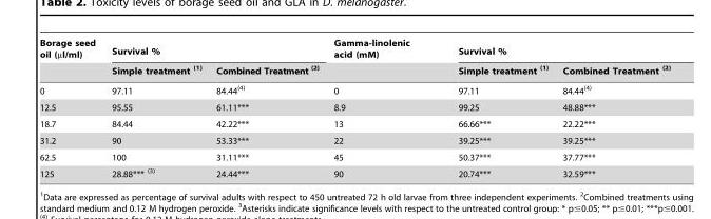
<table><thead><tr><td rowspan="2">Borage seed oil (µl/ml)</td><td colspan="2">Survival %</td><td rowspan="2">Gamma-linolenic acid (mM)</td><td colspan="2">Survival %</td></tr><tr><td>Simple treatment <sup>(1)</sup></td><td>Combined Treatment <sup>(2)</sup></td><td>Simple treatment <sup>(1)</sup></td><td>Combined Treatment <sup>(2)</sup></td></tr></thead><tbody><tr><td>0</td><td>97.11</td><td>84.44<sup>(4)</sup></td><td>0</td><td>97.11</td><td>84.44<sup>(4)</sup></td></tr><tr><td>12.5</td><td>95.55</td><td>61.11***</td><td>8.9</td><td>99.25</td><td>48.88***</td></tr><tr><td>18.7</td><td>84.44</td><td>42.22***</td><td>13</td><td>66.66***</td><td>22.22***</td></tr><tr><td>31.2</td><td>90</td><td>53.33***</td><td>22</td><td>39.25***</td><td>39.25***</td></tr><tr><td>62.5</td><td>100</td><td>31.11***</td><td>45</td><td>50.37***</td><td>37.77***</td></tr><tr><td>125</td><td>28.88*** <sup>(3)</sup></td><td>24.44***</td><td>90</td><td>20.74***</td><td>32.59***</td></tr></tbody></table>